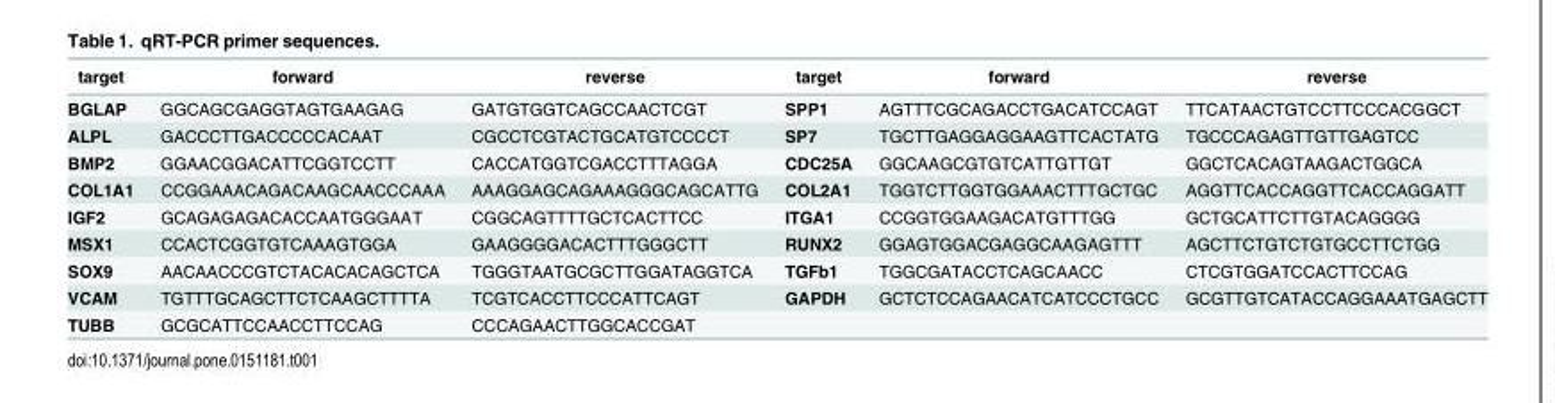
<table><thead><tr><td>target</td><td>forward</td><td>reverse</td><td>target</td><td>forward</td><td>reverse</td></tr></thead><tbody><tr><td>BGLAP</td><td>GGCAGCGAGGTAGTGAAGAG</td><td>GATGTGGTCAGCCAACTCGT</td><td>SPP1</td><td>AGTTTCGCAGACCTGACATCCAGT</td><td>TTCATAACTGTCCTTCCCACGGCT</td></tr><tr><td>ALPL</td><td>GACCCTTGACCCCCACAAT</td><td>CGCCTCGTACTGCATGTCCCCT</td><td>SP7</td><td>TGCTTGAGGAGGAAGTTCACTATG</td><td>TGCCCAGAGTTGTTGAGTCC</td></tr><tr><td>BMP2</td><td>GGAACGGACATTCGGTCCTT</td><td>CACCATGGTCGACCTTTAGGA</td><td>CDC25A</td><td>GGCAAGCGTGTCATTGTTGT</td><td>GGCTCACAGTAAGACTGGCA</td></tr><tr><td>COL1A1</td><td>CCGGAAACAGACAAGCAACCCAAA</td><td>AAAGGAGCAGAAAGGGCAGCATTG</td><td>COL2A1</td><td>TGGTCTTGGTGGAAACTTTGCTGC</td><td>AGGTTCACCAGGTTCACCAGGATT</td></tr><tr><td>IGF2</td><td>GCAGAGAGACACCAATGGGAAT</td><td>CGGCAGTTTTGCTCACTTCC</td><td>ITGA1</td><td>CCGGTGGAAGACATGTTTGG</td><td>GCTGCATTCTTGTACAGGGG</td></tr><tr><td>MSX1</td><td>CCACTCGGTGTCAAAGTGGA</td><td>GAAGGGGACACTTTGGGCTT</td><td>RUNX2</td><td>GGAGTGGACGAGGCAAGAGTTT</td><td>AGCTTCTGTCTGTGCCTTCTGG</td></tr><tr><td>SOX9</td><td>AACAACCCGTCTACACACAGCTCA</td><td>TGGGTAATGCGCTTGGATAGGTCA</td><td>TGFb1</td><td>TGGCGATACCTCAGCAACC</td><td>CTCGTGGATCCACTTCCAG</td></tr><tr><td>VCAM</td><td>TGTTTGCAGCTTCTCAAGCTTTTA</td><td>TCGTCACCTTCCCATTCAGT</td><td>GAPDH</td><td>GCTCTCCAGAACATCATCCCTGCC</td><td>GCGTTGTCATACCAGGAAATGAGCTT</td></tr><tr><td>TUBB</td><td>GCGCATTCCAACCTTCCAG</td><td>CCCAGAACTTGGCACCGAT</td><td></td><td></td><td></td></tr></tbody></table>